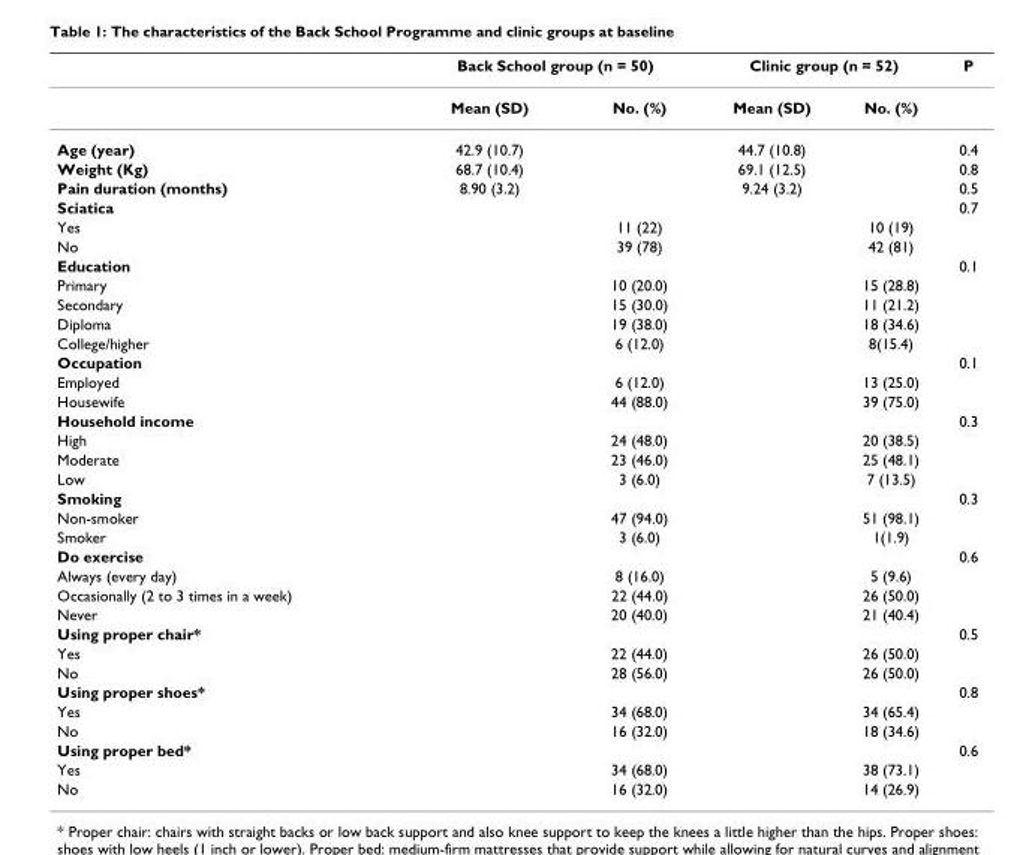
<table><thead><tr><td rowspan="2"></td><td colspan="2">Back School group (n = 50)</td><td colspan="2">Clinic group (n = 52)</td><td rowspan="2">P</td></tr><tr><td>Mean (SD)</td><td>No. (%)</td><td>Mean (SD)</td><td>No. (%)</td></tr></thead><tbody><tr><td>Age (year)</td><td>42.9 (10.7)</td><td></td><td>44.7 (10.8)</td><td></td><td>0.4</td></tr><tr><td>Weight (Kg)</td><td>68.7 (10.4)</td><td></td><td>69.1 (12.5)</td><td></td><td>0.8</td></tr><tr><td>Pain duration (months)</td><td>8.90 (3.2)</td><td></td><td>9.24 (3.2)</td><td></td><td>0.5</td></tr><tr><td>Sciatica</td><td></td><td></td><td></td><td></td><td>0.7</td></tr><tr><td>Yes</td><td></td><td>11 (22)</td><td></td><td>10 (19)</td><td></td></tr><tr><td>No</td><td></td><td>39 (78)</td><td></td><td>42 (81)</td><td></td></tr><tr><td>Education</td><td></td><td></td><td></td><td></td><td>0.1</td></tr><tr><td>Primary</td><td></td><td>10 (20.0)</td><td></td><td>15 (28.8)</td><td></td></tr><tr><td>Secondary</td><td></td><td>15 (30.0)</td><td></td><td>11 (21.2)</td><td></td></tr><tr><td>Diploma</td><td></td><td>19 (38.0)</td><td></td><td>18 (34.6)</td><td></td></tr><tr><td>College/higher</td><td></td><td>6 (12.0)</td><td></td><td>8(15.4)</td><td></td></tr><tr><td>Occupation</td><td></td><td></td><td></td><td></td><td>0.1</td></tr><tr><td>Employed</td><td></td><td>6 (12.0)</td><td></td><td>13 (25.0)</td><td></td></tr><tr><td>Housewife</td><td></td><td>44 (88.0)</td><td></td><td>39 (75.0)</td><td></td></tr><tr><td>Household income</td><td></td><td></td><td></td><td></td><td>0.3</td></tr><tr><td>High</td><td></td><td>24 (48.0)</td><td></td><td>20 (38.5)</td><td></td></tr><tr><td>Moderate</td><td></td><td>23 (46.0)</td><td></td><td>25 (48.1)</td><td></td></tr><tr><td>Low</td><td></td><td>3 (6.0)</td><td></td><td>7 (13.5)</td><td></td></tr><tr><td>Smoking</td><td></td><td></td><td></td><td></td><td>0.3</td></tr><tr><td>Non-smoker</td><td></td><td>47 (94.0)</td><td></td><td>51 (98.1)</td><td></td></tr><tr><td>Smoker</td><td></td><td>3 (6.0)</td><td></td><td>1(1.9)</td><td></td></tr><tr><td>Do exercise</td><td></td><td></td><td></td><td></td><td>0.6</td></tr><tr><td>Always (every day)</td><td></td><td>8 (16.0)</td><td></td><td>5 (9.6)</td><td></td></tr><tr><td>Occasionally (2 to 3 times in a week)</td><td></td><td>22 (44.0)</td><td></td><td>26 (50.0)</td><td></td></tr><tr><td>Never</td><td></td><td>20 (40.0)</td><td></td><td>21 (40.4)</td><td></td></tr><tr><td>Using proper chair*</td><td></td><td></td><td></td><td></td><td>0.5</td></tr><tr><td>Yes</td><td></td><td>22 (44.0)</td><td></td><td>26 (50.0)</td><td></td></tr><tr><td>No</td><td></td><td>28 (56.0)</td><td></td><td>26 (50.0)</td><td></td></tr><tr><td>Using proper shoes*</td><td></td><td></td><td></td><td></td><td>0.8</td></tr><tr><td>Yes</td><td></td><td>34 (68.0)</td><td></td><td>34 (65.4)</td><td></td></tr><tr><td>No</td><td></td><td>16 (32.0)</td><td></td><td>18 (34.6)</td><td></td></tr><tr><td>Using proper bed*</td><td></td><td></td><td></td><td></td><td>0.6</td></tr><tr><td>Yes</td><td></td><td>34 (68.0)</td><td></td><td>38 (73.1)</td><td></td></tr><tr><td>No</td><td></td><td>16 (32.0)</td><td></td><td>14 (26.9)</td><td></td></tr></tbody></table>